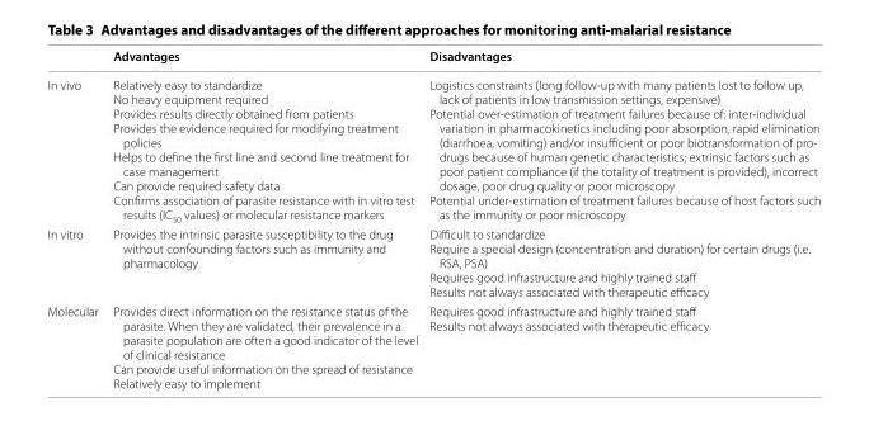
<table><thead><tr><td></td><td>Advantages</td><td>Disadvantages</td></tr></thead><tbody><tr><td>In vivo</td><td>Relatively easy to standardize No heavy equipment required Provides results directly obtained from patients Provides the evidence required for modifying treatment policies Helps to define the first line and second line treatment for case management Can provide required safety data Confirms association of parasite resistance with in vitro test results (IC<sub>50</sub> values) or molecular resistance markers</td><td>Logistics constraints (long follow-up with many patients lost to follow up, lack of patients in low transmission settings, expensive) Potential over-estimation of treatment failures because of: inter-individual variation in pharmacokinetics including poor absorption, rapid elimination (diarrhoea, vomiting) and/or insufficient or poor biotransformation of pro- drugs because of human genetic characteristics; extrinsic factors such as poor patient compliance (if the totality of treatment is provided), incorrect dosage, poor drug quality or poor microscopy Potential under-estimation of treatment failures because of host factors such as the immunity or poor microscopy</td></tr><tr><td>In vitro</td><td>Provides the intrinsic parasite susceptibility to the drug without confounding factors such as immunity and pharmacology</td><td>Difficult to standardize Require a special design (concentration and duration) for certain drugs (i.e. RSA, PSA) Requires good infrastructure and highly trained staff Results not always associated with therapeutic efficacy</td></tr><tr><td>Molecular</td><td>Provides direct information on the resistance status of the parasite. When they are validated, their prevalence in a parasite population are often a good indicator of the level of clinical resistance Can provide useful information on the spread of resistance Relatively easy to implement</td><td>Requires good infrastructure and highly trained staff Results not always associated with therapeutic efficacy</td></tr></tbody></table>